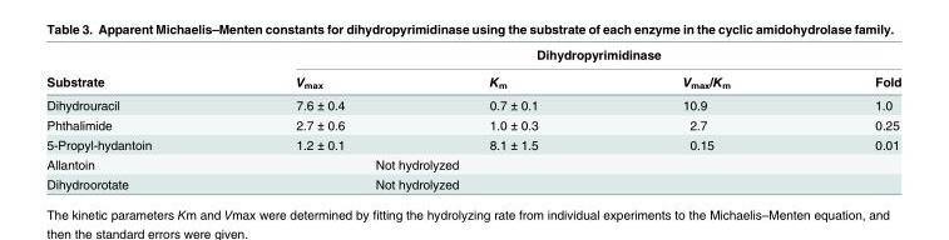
<table><thead><tr><td rowspan="2">Substrate</td><td colspan="4">Dihydropyrimidinase</td></tr><tr><td>V<sub>max</sub></td><td>K<sub>m</sub></td><td>V<sub>max</sub>/K<sub>m</sub></td><td>Fold</td></tr></thead><tbody><tr><td>Dihydrouracil</td><td>7.6 ± 0.4</td><td>0.7 ± 0.1</td><td>10.9</td><td>1.0</td></tr><tr><td>Phthalimide</td><td>2.7 ± 0.6</td><td>1.0 ± 0.3</td><td>2.7</td><td>0.25</td></tr><tr><td>5-Propyl-hydantoin</td><td>1.2 ± 0.1</td><td>8.1 ± 1.5</td><td>0.15</td><td>0.01</td></tr><tr><td>Allantoin</td><td colspan="2">Not hydrolyzed</td><td></td><td></td></tr><tr><td>Dihydroorotate</td><td colspan="2">Not hydrolyzed</td><td></td><td></td></tr></tbody></table>